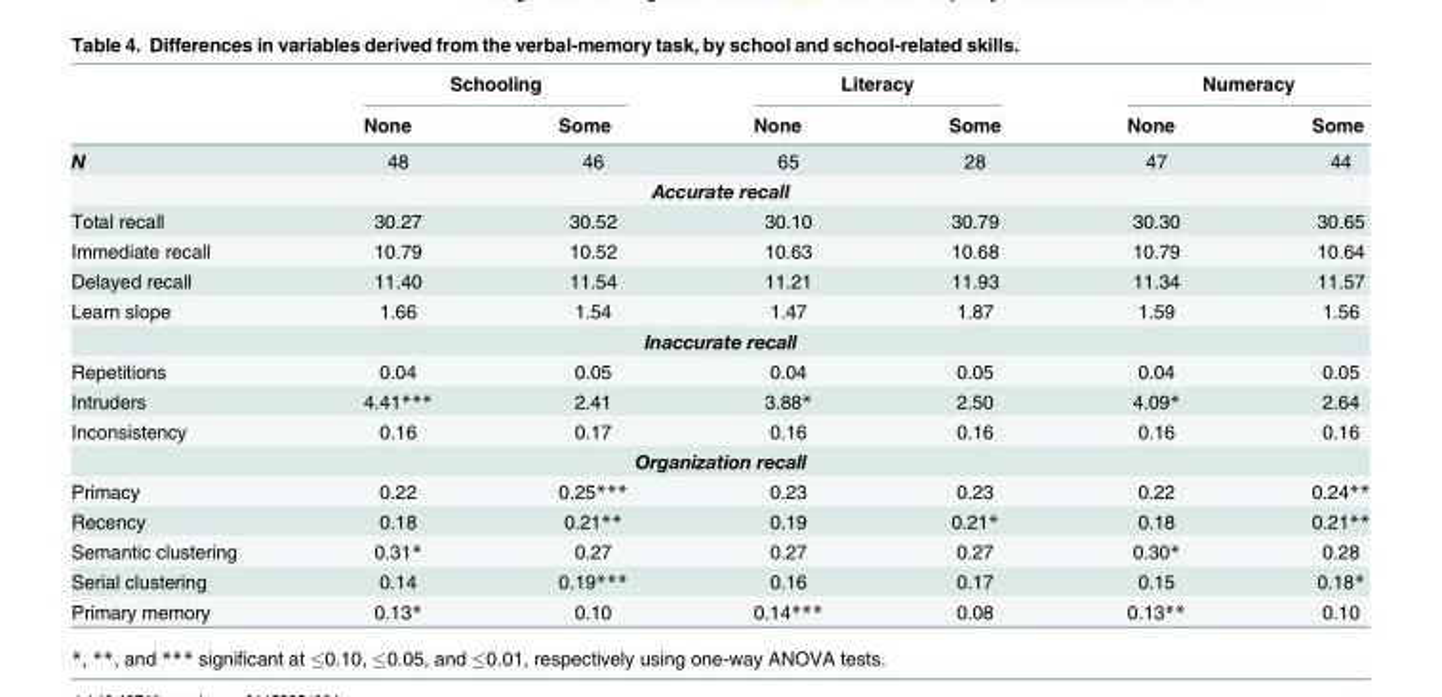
<table><thead><tr><td rowspan="2"></td><td colspan="2">Schooling</td><td colspan="2">Literacy</td><td colspan="2">Numeracy</td></tr><tr><td>None</td><td>Some</td><td>None</td><td>Some</td><td>None</td><td>Some</td></tr></thead><tbody><tr><td>N</td><td>48</td><td>46</td><td>65</td><td>28</td><td>47</td><td>44</td></tr><tr><td colspan="7">Accurate recall</td></tr><tr><td>Total recall</td><td>30.27</td><td>30.52</td><td>30.10</td><td>30.79</td><td>30.30</td><td>30.65</td></tr><tr><td>Immediate recall</td><td>10.79</td><td>10.52</td><td>10.63</td><td>10.68</td><td>10.79</td><td>10.64</td></tr><tr><td>Delayed recall</td><td>11.40</td><td>11.54</td><td>11.21</td><td>11.93</td><td>11.34</td><td>11.57</td></tr><tr><td>Learn slope</td><td>1.66</td><td>1.54</td><td>1.47</td><td>1.87</td><td>1.59</td><td>1.56</td></tr><tr><td colspan="7">Inaccurate recall</td></tr><tr><td>Repetitions</td><td>0.04</td><td>0.05</td><td>0.04</td><td>0.05</td><td>0.04</td><td>0.05</td></tr><tr><td>Intruders</td><td>4.41***</td><td>2.41</td><td>3.88*</td><td>2.50</td><td>4.09*</td><td>2.64</td></tr><tr><td>Inconsistency</td><td>0.16</td><td>0.17</td><td>0.16</td><td>0.16</td><td>0.16</td><td>0.16</td></tr><tr><td colspan="7">Organization recall</td></tr><tr><td>Primacy</td><td>0.22</td><td>0.25***</td><td>0.23</td><td>0.23</td><td>0.22</td><td>0.24**</td></tr><tr><td>Recency</td><td>0.18</td><td>0.21**</td><td>0.19</td><td>0.21*</td><td>0.18</td><td>0.21**</td></tr><tr><td>Semantic clustering</td><td>0.31*</td><td>0.27</td><td>0.27</td><td>0.27</td><td>0.30*</td><td>0.28</td></tr><tr><td>Serial clustering</td><td>0.14</td><td>0.19***</td><td>0.16</td><td>0.17</td><td>0.15</td><td>0.18*</td></tr><tr><td>Primary memory</td><td>0.13*</td><td>0.10</td><td>0.14***</td><td>0.08</td><td>0.13**</td><td>0.10</td></tr></tbody></table>